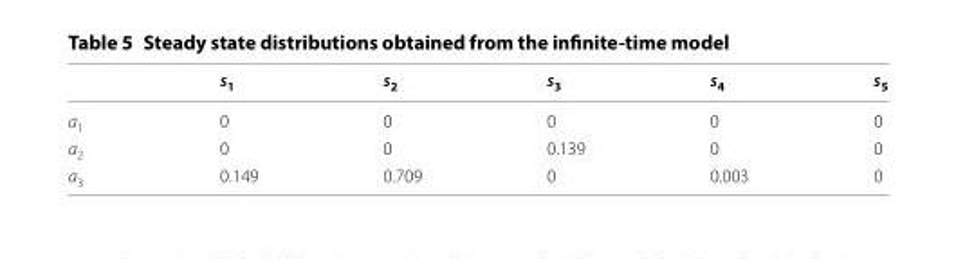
<table><thead><tr><td></td><td>s<sub>1</sub></td><td>s<sub>2</sub></td><td>s<sub>3</sub></td><td>s<sub>4</sub></td><td>s<sub>5</sub></td></tr></thead><tbody><tr><td>a<sub>1</sub></td><td>0</td><td>0</td><td>0</td><td>0</td><td>0</td></tr><tr><td>a<sub>2</sub></td><td>0</td><td>0</td><td>0.139</td><td>0</td><td>0</td></tr><tr><td>a<sub>3</sub></td><td>0.149</td><td>0.709</td><td>0</td><td>0.003</td><td>0</td></tr></tbody></table>